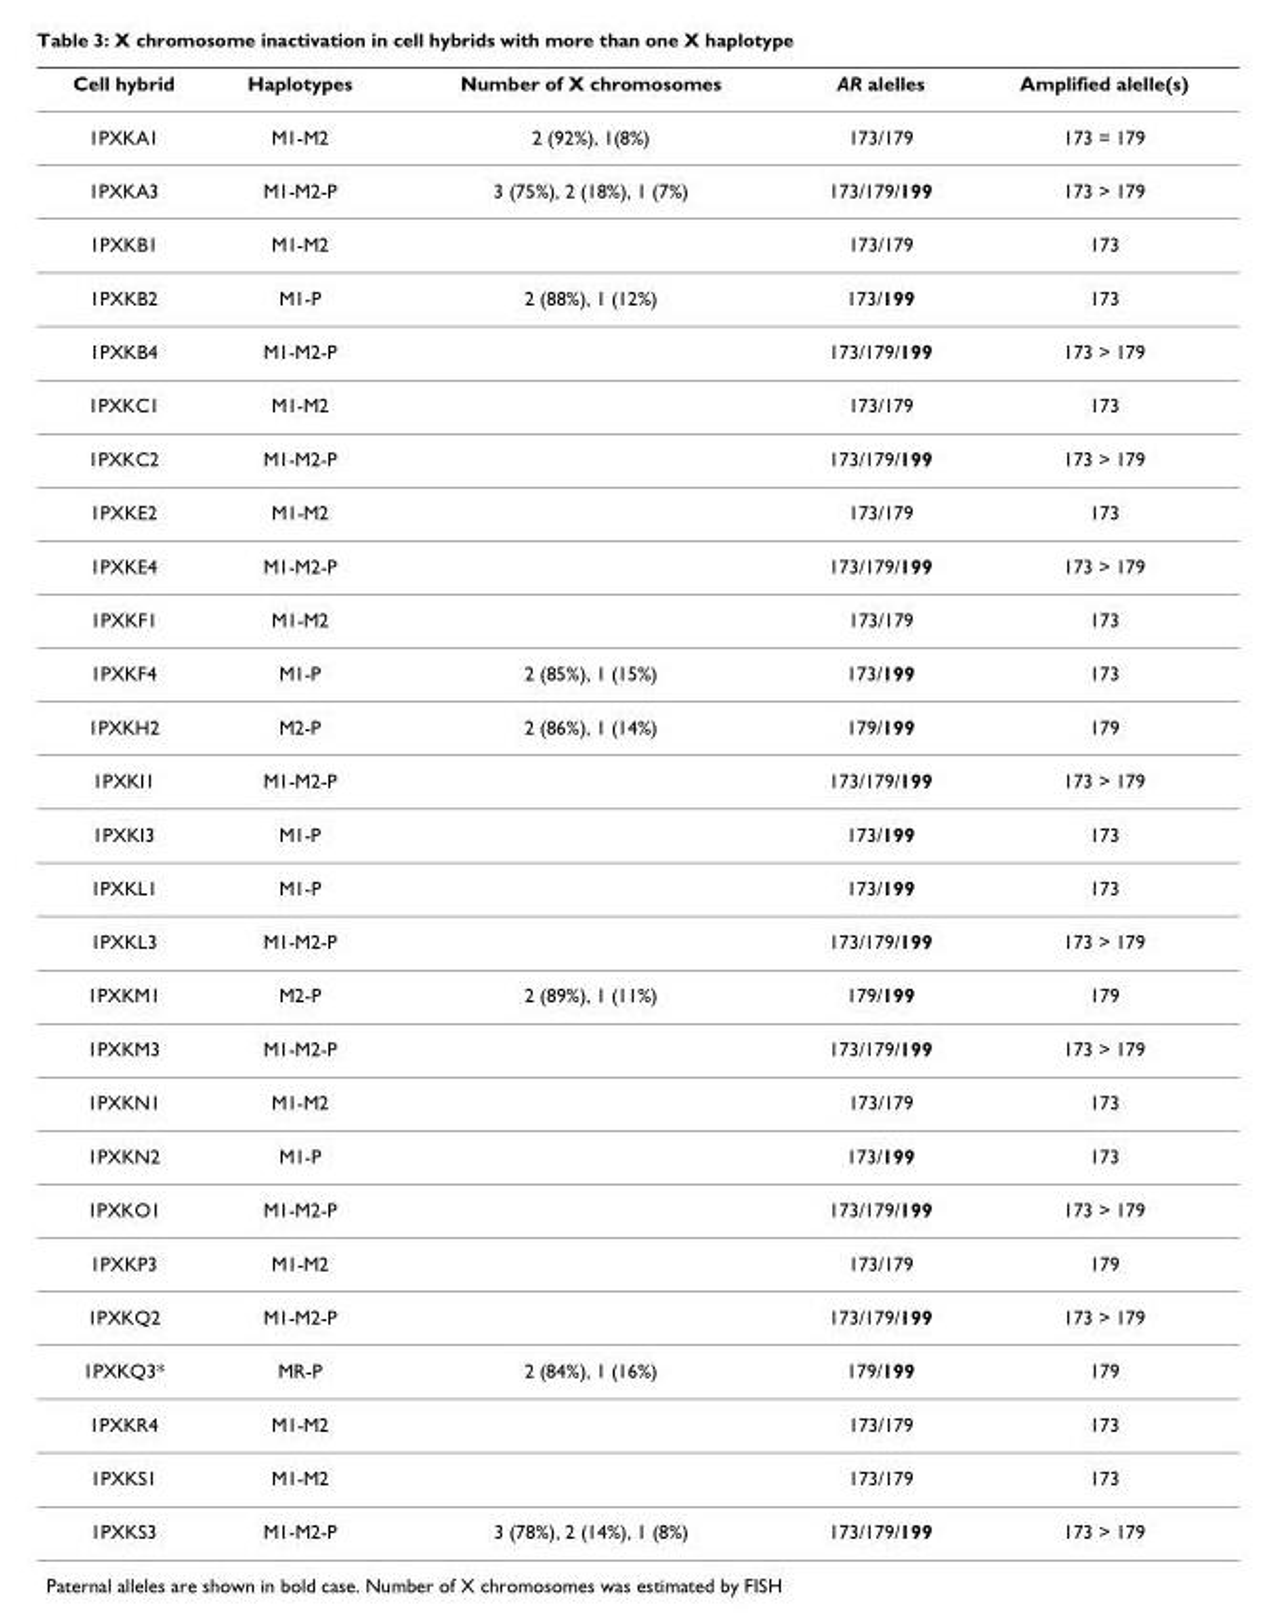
<table><thead><tr><td>Cell hybrid</td><td>Haplotypes</td><td>Number of X chromosomes</td><td>AR alelles</td><td>Amplified alelle(s)</td></tr></thead><tbody><tr><td>1PXKA1</td><td>M1-M2</td><td>2 (92%), 1(8%)</td><td>173/179</td><td>173 = 179</td></tr><tr><td>1PXKA3</td><td>M1-M2-P</td><td>3 (75%), 2 (18%), 1 (7%)</td><td>173/179/199</td><td>173 &gt; 179</td></tr><tr><td>1PXKB1</td><td>M1-M2</td><td></td><td>173/179</td><td>173</td></tr><tr><td>1PXKB2</td><td>M1-P</td><td>2 (88%), 1 (12%)</td><td>173/199</td><td>173</td></tr><tr><td>1PXKB4</td><td>M1-M2-P</td><td></td><td>173/179/199</td><td>173 &gt; 179</td></tr><tr><td>1PXKC1</td><td>M1-M2</td><td></td><td>173/179</td><td>173</td></tr><tr><td>1PXKC2</td><td>M1-M2-P</td><td></td><td>173/179/199</td><td>173 &gt; 179</td></tr><tr><td>1PXKE2</td><td>M1-M2</td><td></td><td>173/179</td><td>173</td></tr><tr><td>1PXKE4</td><td>M1-M2-P</td><td></td><td>173/179/199</td><td>173 &gt; 179</td></tr><tr><td>1PXKF1</td><td>M1-M2</td><td></td><td>173/179</td><td>173</td></tr><tr><td>1PXKF4</td><td>M1-P</td><td>2 (85%), 1 (15%)</td><td>173/199</td><td>173</td></tr><tr><td>1PXKH2</td><td>M2-P</td><td>2 (86%), 1 (14%)</td><td>179/199</td><td>179</td></tr><tr><td>1PXKI1</td><td>M1-M2-P</td><td></td><td>173/179/199</td><td>173 &gt; 179</td></tr><tr><td>1PXKI3</td><td>M1-P</td><td></td><td>173/199</td><td>173</td></tr><tr><td>1PXKL1</td><td>M1-P</td><td></td><td>173/199</td><td>173</td></tr><tr><td>1PXKL3</td><td>M1-M2-P</td><td></td><td>173/179/199</td><td>173 &gt; 179</td></tr><tr><td>1PXKM1</td><td>M2-P</td><td>2 (89%), 1 (11%)</td><td>179/199</td><td>179</td></tr><tr><td>1PXKM3</td><td>M1-M2-P</td><td></td><td>173/179/199</td><td>173 &gt; 179</td></tr><tr><td>1PXKN1</td><td>M1-M2</td><td></td><td>173/179</td><td>173</td></tr><tr><td>1PXKN2</td><td>M1-P</td><td></td><td>173/199</td><td>173</td></tr><tr><td>1PXKO1</td><td>M1-M2-P</td><td></td><td>173/179/199</td><td>173 &gt; 179</td></tr><tr><td>1PXKP3</td><td>M1-M2</td><td></td><td>173/179</td><td>179</td></tr><tr><td>1PXKQ2</td><td>M1-M2-P</td><td></td><td>173/179/199</td><td>173 &gt; 179</td></tr><tr><td>1PXKQ3*</td><td>MR-P</td><td>2 (84%), 1 (16%)</td><td>179/199</td><td>179</td></tr><tr><td>1PXKR4</td><td>M1-M2</td><td></td><td>173/179</td><td>173</td></tr><tr><td>1PXKS1</td><td>M1-M2</td><td></td><td>173/179</td><td>173</td></tr><tr><td>1PXKS3</td><td>M1-M2-P</td><td>3 (78%), 2 (14%), 1 (8%)</td><td>173/179/199</td><td>173 &gt; 179</td></tr></tbody></table>